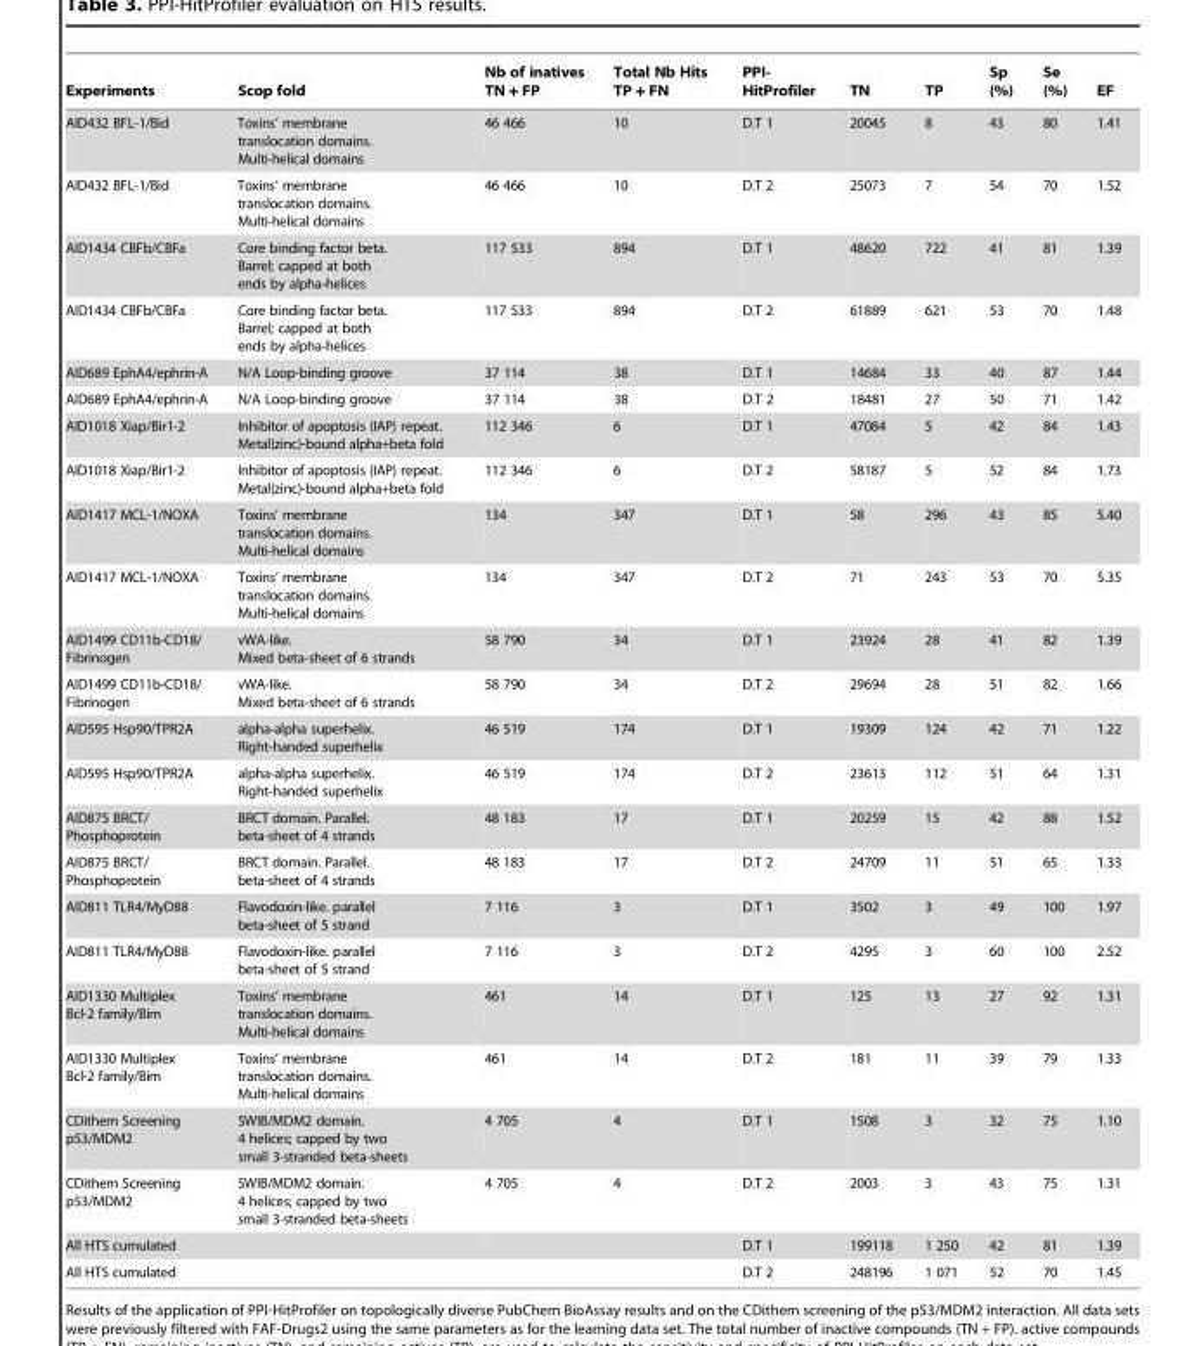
<table><thead><tr><td>Experiments</td><td>Scop fold</td><td>Nb of inatives TN + FP</td><td>Total Nb Hits TP + FN</td><td>PPI- HitProfiler</td><td>TN</td><td>TP</td><td>Sp (%)</td><td>Se (%)</td><td>EF</td></tr></thead><tbody><tr><td>AID432 BFL-1/Bid</td><td>Toxins’ membrane translocation domains. Multi-helical domains</td><td>46 466</td><td>10</td><td>D.T 1</td><td>20045</td><td>8</td><td>43</td><td>80</td><td>1.41</td></tr><tr><td>AID432 BFL-1/Bid</td><td>Toxins’ membrane translocation domains. Multi-helical domains</td><td>46 466</td><td>10</td><td>D.T 2</td><td>25073</td><td>7</td><td>54</td><td>70</td><td>1.52</td></tr><tr><td>AID1434 CBFb/CBFa</td><td>Core binding factor beta. Barrel; capped at both ends by alpha-helices</td><td>117 533</td><td>894</td><td>D.T 1</td><td>48620</td><td>722</td><td>41</td><td>81</td><td>1.39</td></tr><tr><td>AID1434 CBFb/CBFa</td><td>Core binding factor beta. Barrel; capped at both ends by alpha-helices</td><td>117 533</td><td>894</td><td>D.T 2</td><td>61889</td><td>621</td><td>53</td><td>70</td><td>1.48</td></tr><tr><td>AID689 EphA4/ephrin-A</td><td>N/A Loop-binding groove</td><td>37 114</td><td>38</td><td>D.T 1</td><td>14684</td><td>33</td><td>40</td><td>87</td><td>1.44</td></tr><tr><td>AID689 EphA4/ephrin-A</td><td>N/A Loop-binding groove</td><td>37 114</td><td>38</td><td>D.T 2</td><td>18481</td><td>27</td><td>50</td><td>71</td><td>1.42</td></tr><tr><td>AID1018 Xiap/Bir1-2</td><td>Inhibitor of apoptosis (IAP) repeat. Metal(zinc)-bound alpha+beta fold</td><td>112 346</td><td>6</td><td>D.T 1</td><td>47084</td><td>5</td><td>42</td><td>84</td><td>1.43</td></tr><tr><td>AID1018 Xiap/Bir1-2</td><td>Inhibitor of apoptosis (IAP) repeat. Metal(zinc)-bound alpha+beta fold</td><td>112 346</td><td>6</td><td>D.T 2</td><td>58187</td><td>5</td><td>52</td><td>84</td><td>1.73</td></tr><tr><td>AID1417 MCL-1/NOXA</td><td>Toxins’ membrane translocation domains. Multi-helical domains</td><td>134</td><td>347</td><td>D.T 1</td><td>58</td><td>296</td><td>43</td><td>85</td><td>5.40</td></tr><tr><td>AID1417 MCL-1/NOXA</td><td>Toxins’ membrane translocation domains. Multi-helical domains</td><td>134</td><td>347</td><td>D.T 2</td><td>71</td><td>243</td><td>53</td><td>70</td><td>5.35</td></tr><tr><td>AID1499 CD11b-CD18/ Fibrinogen</td><td>vWA-like. Mixed beta-sheet of 6 strands</td><td>58 790</td><td>34</td><td>D.T 1</td><td>23924</td><td>28</td><td>41</td><td>82</td><td>1.39</td></tr><tr><td>AID1499 CD11b-CD18/ Fibrinogen</td><td>vWA-like. Mixed beta-sheet of 6 strands</td><td>58 790</td><td>34</td><td>D.T 2</td><td>29694</td><td>28</td><td>51</td><td>82</td><td>1.66</td></tr><tr><td>AID595 Hsp90/TPR2A</td><td>alpha-alpha superhelix. Right-handed superhelix</td><td>46 519</td><td>174</td><td>D.T 1</td><td>19309</td><td>124</td><td>42</td><td>71</td><td>1.22</td></tr><tr><td>AID595 Hsp90/TPR2A</td><td>alpha-alpha superhelix. Right-handed superhelix</td><td>46 519</td><td>174</td><td>D.T 2</td><td>23613</td><td>112</td><td>51</td><td>64</td><td>1.31</td></tr><tr><td>AID875 BRCT/ Phosphoprotein</td><td>BRCT domain. Parallel. beta-sheet of 4 strands</td><td>48 183</td><td>17</td><td>D.T 1</td><td>20259</td><td>15</td><td>42</td><td>88</td><td>1.52</td></tr><tr><td>AID875 BRCT/ Phosphoprotein</td><td>BRCT domain. Parallel. beta-sheet of 4 strands</td><td>48 183</td><td>17</td><td>D.T 2</td><td>24709</td><td>11</td><td>51</td><td>65</td><td>1.33</td></tr><tr><td>AID811 TLR4/MyD88</td><td>Flavodoxin-like. parallel beta-sheet of 5 strand</td><td>7 116</td><td>3</td><td>D.T 1</td><td>3502</td><td>3</td><td>49</td><td>100</td><td>1.97</td></tr><tr><td>AID811 TLR4/MyD88</td><td>Flavodoxin-like. parallel beta-sheet of 5 strand</td><td>7 116</td><td>3</td><td>D.T 2</td><td>4295</td><td>3</td><td>60</td><td>100</td><td>2.52</td></tr><tr><td>AID1330 Multiplex Bcl-2 family/Bim</td><td>Toxins’ membrane translocation domains. Multi-helical domains</td><td>461</td><td>14</td><td>D.T 1</td><td>125</td><td>13</td><td>27</td><td>92</td><td>1.31</td></tr><tr><td>AID1330 Multiplex Bcl-2 family/Bim</td><td>Toxins’ membrane translocation domains. Multi-helical domains</td><td>461</td><td>14</td><td>D.T 2</td><td>181</td><td>11</td><td>39</td><td>79</td><td>1.33</td></tr><tr><td>CDithem Screening p53/MDM2</td><td>SWIB/MDM2 domain. 4 helices; capped by two small 3-stranded beta-sheets</td><td>4 705</td><td>4</td><td>D.T 1</td><td>1508</td><td>3</td><td>32</td><td>75</td><td>1.10</td></tr><tr><td>CDithem Screening p53/MDM2</td><td>SWIB/MDM2 domain. 4 helices; capped by two small 3-stranded beta-sheets</td><td>4 705</td><td>4</td><td>D.T 2</td><td>2003</td><td>3</td><td>43</td><td>75</td><td>1.31</td></tr><tr><td>All HTS cumulated</td><td></td><td></td><td></td><td>D.T 1</td><td>199118</td><td>1 250</td><td>42</td><td>81</td><td>1.39</td></tr><tr><td>All HTS cumulated</td><td></td><td></td><td></td><td>D.T 2</td><td>248196</td><td>1 071</td><td>52</td><td>70</td><td>1.45</td></tr></tbody></table>